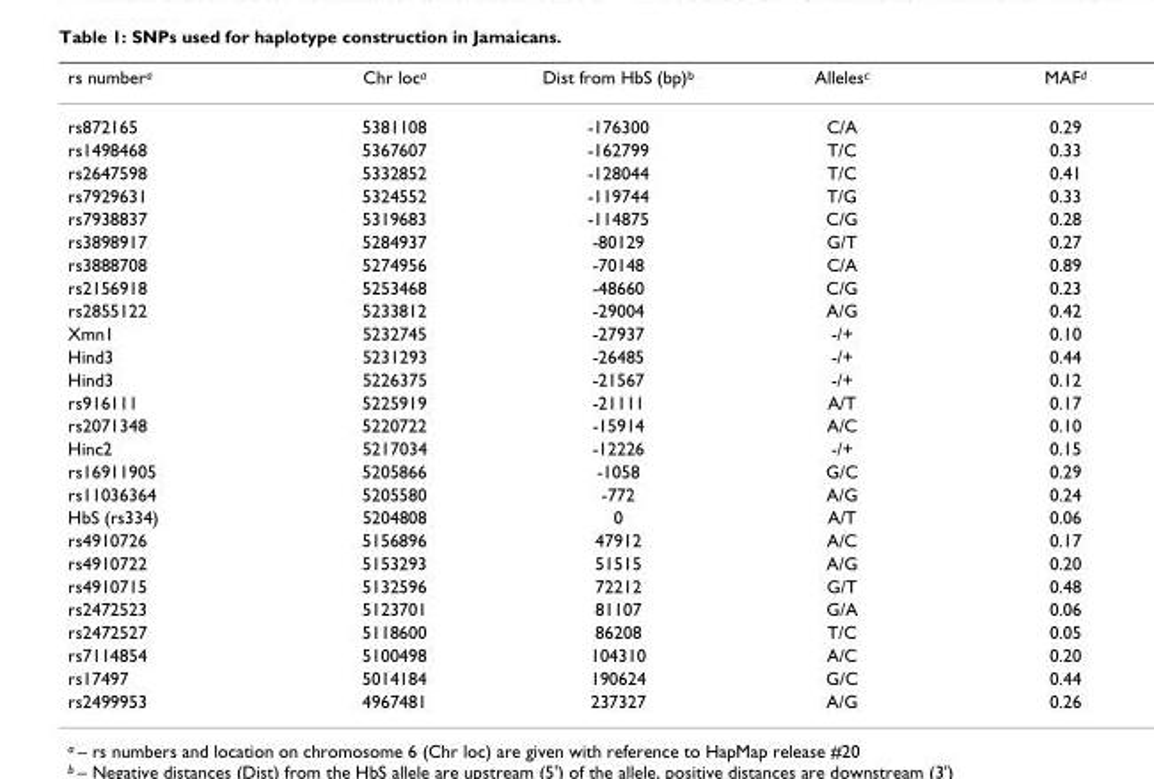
<table><thead><tr><td>rs number<sup>a</sup></td><td>Chr loc<sup>a</sup></td><td>Dist from HbS (bp)<sup>b</sup></td><td>Alleles<sup>c</sup></td><td>MAF<sup>d</sup></td></tr></thead><tbody><tr><td>rs872165</td><td>5381108</td><td>-176300</td><td>C/A</td><td>0.29</td></tr><tr><td>rs1498468</td><td>5367607</td><td>-162799</td><td>T/C</td><td>0.33</td></tr><tr><td>rs2647598</td><td>5332852</td><td>-128044</td><td>T/C</td><td>0.41</td></tr><tr><td>rs7929631</td><td>5324552</td><td>-119744</td><td>T/G</td><td>0.33</td></tr><tr><td>rs7938837</td><td>5319683</td><td>-114875</td><td>C/G</td><td>0.28</td></tr><tr><td>rs3898917</td><td>5284937</td><td>-80129</td><td>G/T</td><td>0.27</td></tr><tr><td>rs3888708</td><td>5274956</td><td>-70148</td><td>C/A</td><td>0.89</td></tr><tr><td>rs2156918</td><td>5253468</td><td>-48660</td><td>C/G</td><td>0.23</td></tr><tr><td>rs2855122</td><td>5233812</td><td>-29004</td><td>A/G</td><td>0.42</td></tr><tr><td>Xmn1</td><td>5232745</td><td>-27937</td><td>-/+</td><td>0.10</td></tr><tr><td>Hind3</td><td>5231293</td><td>-26485</td><td>-/+</td><td>0.44</td></tr><tr><td>Hind3</td><td>5226375</td><td>-21567</td><td>-/+</td><td>0.12</td></tr><tr><td>rs916111</td><td>5225919</td><td>-21111</td><td>A/T</td><td>0.17</td></tr><tr><td>rs2071348</td><td>5220722</td><td>-15914</td><td>A/C</td><td>0.10</td></tr><tr><td>Hinc2</td><td>5217034</td><td>-12226</td><td>-/+</td><td>0.15</td></tr><tr><td>rs16911905</td><td>5205866</td><td>-1058</td><td>G/C</td><td>0.29</td></tr><tr><td>rs11036364</td><td>5205580</td><td>-772</td><td>A/G</td><td>0.24</td></tr><tr><td>HbS (rs334)</td><td>5204808</td><td>0</td><td>A/T</td><td>0.06</td></tr><tr><td>rs4910726</td><td>5156896</td><td>47912</td><td>A/C</td><td>0.17</td></tr><tr><td>rs4910722</td><td>5153293</td><td>51515</td><td>A/G</td><td>0.20</td></tr><tr><td>rs4910715</td><td>5132596</td><td>72212</td><td>G/T</td><td>0.48</td></tr><tr><td>rs2472523</td><td>5123701</td><td>81107</td><td>G/A</td><td>0.06</td></tr><tr><td>rs2472527</td><td>5118600</td><td>86208</td><td>T/C</td><td>0.05</td></tr><tr><td>rs7114854</td><td>5100498</td><td>104310</td><td>A/C</td><td>0.20</td></tr><tr><td>rs17497</td><td>5014184</td><td>190624</td><td>G/C</td><td>0.44</td></tr><tr><td>rs2499953</td><td>4967481</td><td>237327</td><td>A/G</td><td>0.26</td></tr></tbody></table>